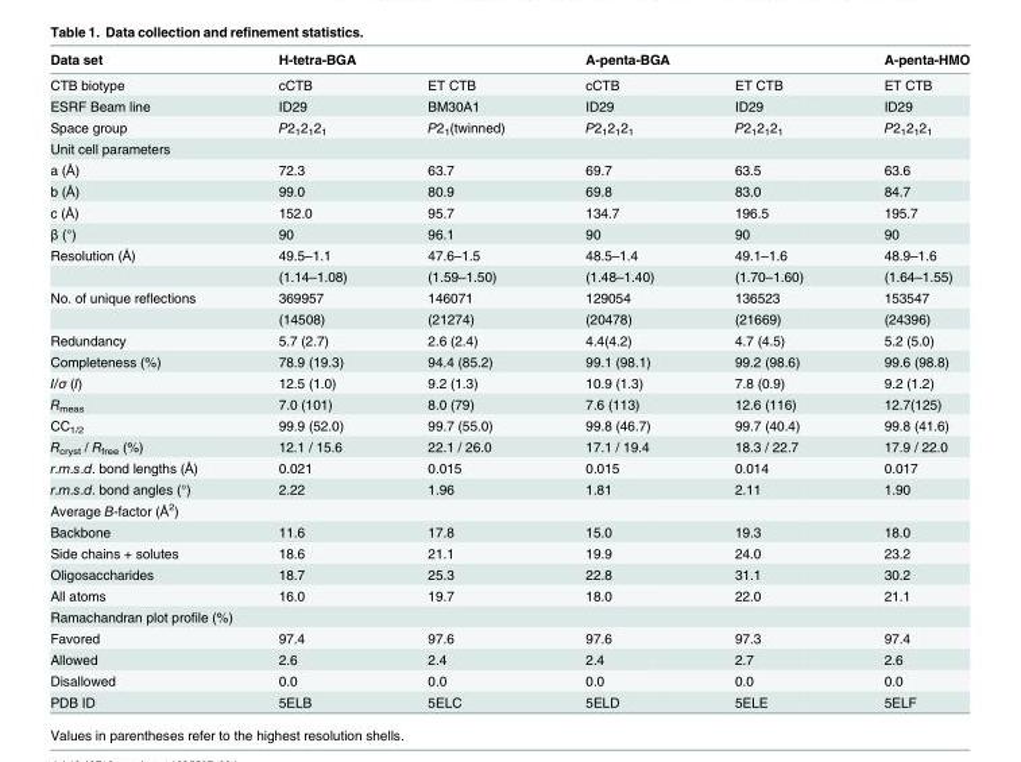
<table><thead><tr><td rowspan="2">Data set CTB biotype</td><td colspan="2">H-tetra-BGA</td><td colspan="2">A-penta-BGA</td><td rowspan="2">A-penta-HMO ET CTB</td></tr><tr><td>cCTB</td><td>ET CTB</td><td>cCTB</td><td>ET CTB</td></tr></thead><tbody><tr><td>ESRF Beam line</td><td>ID29</td><td>BM30A1</td><td>ID29</td><td>ID29</td><td>ID29</td></tr><tr><td>Space group</td><td>P2<sub>1</sub>2<sub>1</sub>2<sub>1</sub></td><td>P2<sub>1</sub>(twinned)</td><td>P2<sub>1</sub>2<sub>1</sub>2<sub>1</sub></td><td>P2<sub>1</sub>2<sub>1</sub>2<sub>1</sub></td><td>P2<sub>1</sub>2<sub>1</sub>2<sub>1</sub></td></tr><tr><td colspan="6">Unit cell parameters</td></tr><tr><td>a (Å)</td><td>72.3</td><td>63.7</td><td>69.7</td><td>63.5</td><td>63.6</td></tr><tr><td>b (Å)</td><td>99.0</td><td>80.9</td><td>69.8</td><td>83.0</td><td>84.7</td></tr><tr><td>c (Å)</td><td>152.0</td><td>95.7</td><td>134.7</td><td>196.5</td><td>195.7</td></tr><tr><td>β (°)</td><td>90</td><td>96.1</td><td>90</td><td>90</td><td>90</td></tr><tr><td rowspan="2">Resolution (Å)</td><td>49.5–1.1</td><td>47.6–1.5</td><td>48.5–1.4</td><td>49.1–1.6</td><td>48.9–1.6</td></tr><tr><td>(1.14–1.08)</td><td>(1.59–1.50)</td><td>(1.48–1.40)</td><td>(1.70–1.60)</td><td>(1.64–1.55)</td></tr><tr><td rowspan="2">No. of unique reflections</td><td>369957</td><td>146071</td><td>129054</td><td>136523</td><td>153547</td></tr><tr><td>(14508)</td><td>(21274)</td><td>(20478)</td><td>(21669)</td><td>(24396)</td></tr><tr><td>Redundancy</td><td>5.7 (2.7)</td><td>2.6 (2.4)</td><td>4.4(4.2)</td><td>4.7 (4.5)</td><td>5.2 (5.0)</td></tr><tr><td>Completeness (%)</td><td>78.9 (19.3)</td><td>94.4 (85.2)</td><td>99.1 (98.1)</td><td>99.2 (98.6)</td><td>99.6 (98.8)</td></tr><tr><td>I/σ (I)</td><td>12.5 (1.0)</td><td>9.2 (1.3)</td><td>10.9 (1.3)</td><td>7.8 (0.9)</td><td>9.2 (1.2)</td></tr><tr><td>R<sub>meas</sub></td><td>7.0 (101)</td><td>8.0 (79)</td><td>7.6 (113)</td><td>12.6 (116)</td><td>12.7(125)</td></tr><tr><td>CC<sub>1/2</sub></td><td>99.9 (52.0)</td><td>99.7 (55.0)</td><td>99.8 (46.7)</td><td>99.7 (40.4)</td><td>99.8 (41.6)</td></tr><tr><td>R<sub>cryst</sub> / R<sub>free</sub> (%)</td><td>12.1 / 15.6</td><td>22.1 / 26.0</td><td>17.1 / 19.4</td><td>18.3 / 22.7</td><td>17.9 / 22.0</td></tr><tr><td>r.m.s.d. bond lengths (Å)</td><td>0.021</td><td>0.015</td><td>0.015</td><td>0.014</td><td>0.017</td></tr><tr><td>r.m.s.d. bond angles (°)</td><td>2.22</td><td>1.96</td><td>1.81</td><td>2.11</td><td>1.90</td></tr><tr><td colspan="6">Average B-factor (Å<sup>2</sup>)</td></tr><tr><td>Backbone</td><td>11.6</td><td>17.8</td><td>15.0</td><td>19.3</td><td>18.0</td></tr><tr><td>Side chains + solutes</td><td>18.6</td><td>21.1</td><td>19.9</td><td>24.0</td><td>23.2</td></tr><tr><td>Oligosaccharides</td><td>18.7</td><td>25.3</td><td>22.8</td><td>31.1</td><td>30.2</td></tr><tr><td>All atoms</td><td>16.0</td><td>19.7</td><td>18.0</td><td>22.0</td><td>21.1</td></tr><tr><td colspan="6">Ramachandran plot profile (%)</td></tr><tr><td>Favored</td><td>97.4</td><td>97.6</td><td>97.6</td><td>97.3</td><td>97.4</td></tr><tr><td>Allowed</td><td>2.6</td><td>2.4</td><td>2.4</td><td>2.7</td><td>2.6</td></tr><tr><td>Disallowed</td><td>0.0</td><td>0.0</td><td>0.0</td><td>0.0</td><td>0.0</td></tr><tr><td>PDB ID</td><td>5ELB</td><td>5ELC</td><td>5ELD</td><td>5ELE</td><td>5ELF</td></tr></tbody></table>